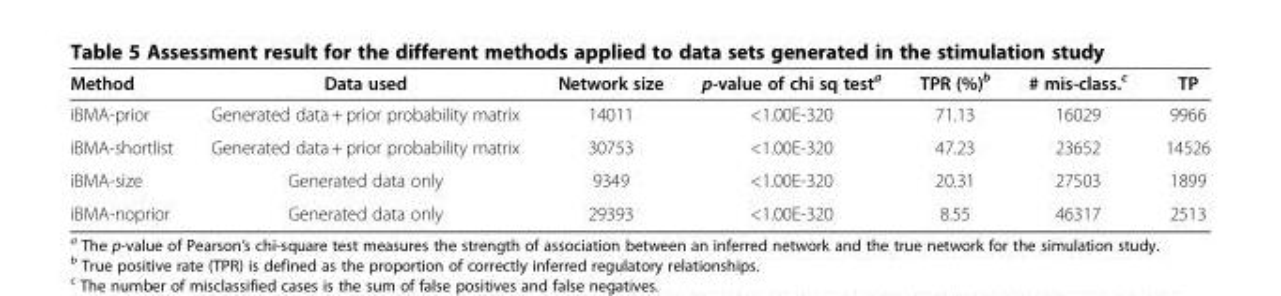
<table><thead><tr><td>Method</td><td>Data used</td><td>Network size</td><td>p-value of chi sq test<sup>a</sup></td><td>TPR (%)<sup>b</sup></td><td># mis-class.<sup>c</sup></td><td>TP</td></tr></thead><tbody><tr><td>iBMA-prior</td><td>Generated data + prior probability matrix</td><td>14011</td><td>&lt;1.00E-320</td><td>71.13</td><td>16029</td><td>9966</td></tr><tr><td>iBMA-shortlist</td><td>Generated data + prior probability matrix</td><td>30753</td><td>&lt;1.00E-320</td><td>47.23</td><td>23652</td><td>14526</td></tr><tr><td>iBMA-size</td><td>Generated data only</td><td>9349</td><td>&lt;1.00E-320</td><td>20.31</td><td>27503</td><td>1899</td></tr><tr><td>iBMA-noprior</td><td>Generated data only</td><td>29393</td><td>&lt;1.00E-320</td><td>8.55</td><td>46317</td><td>2513</td></tr></tbody></table>